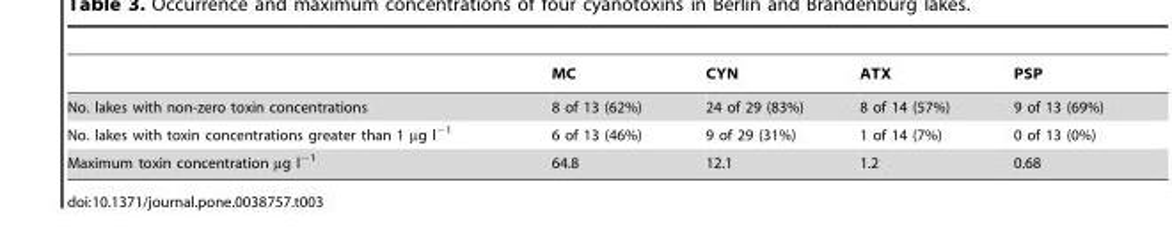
<table><thead><tr><td></td><td>MC</td><td>CYN</td><td>ATX</td><td>PSP</td></tr></thead><tbody><tr><td>No. lakes with non-zero toxin concentrations</td><td>8 of 13 (62%)</td><td>24 of 29 (83%)</td><td>8 of 14 (57%)</td><td>9 of 13 (69%)</td></tr><tr><td>No. lakes with toxin concentrations greater than 1 µg l<sup>−1</sup></td><td>6 of 13 (46%)</td><td>9 of 29 (31%)</td><td>1 of 14 (7%)</td><td>0 of 13 (0%)</td></tr><tr><td>Maximum toxin concentration µg l<sup>−1</sup></td><td>64.8</td><td>12.1</td><td>1.2</td><td>0.68</td></tr></tbody></table>